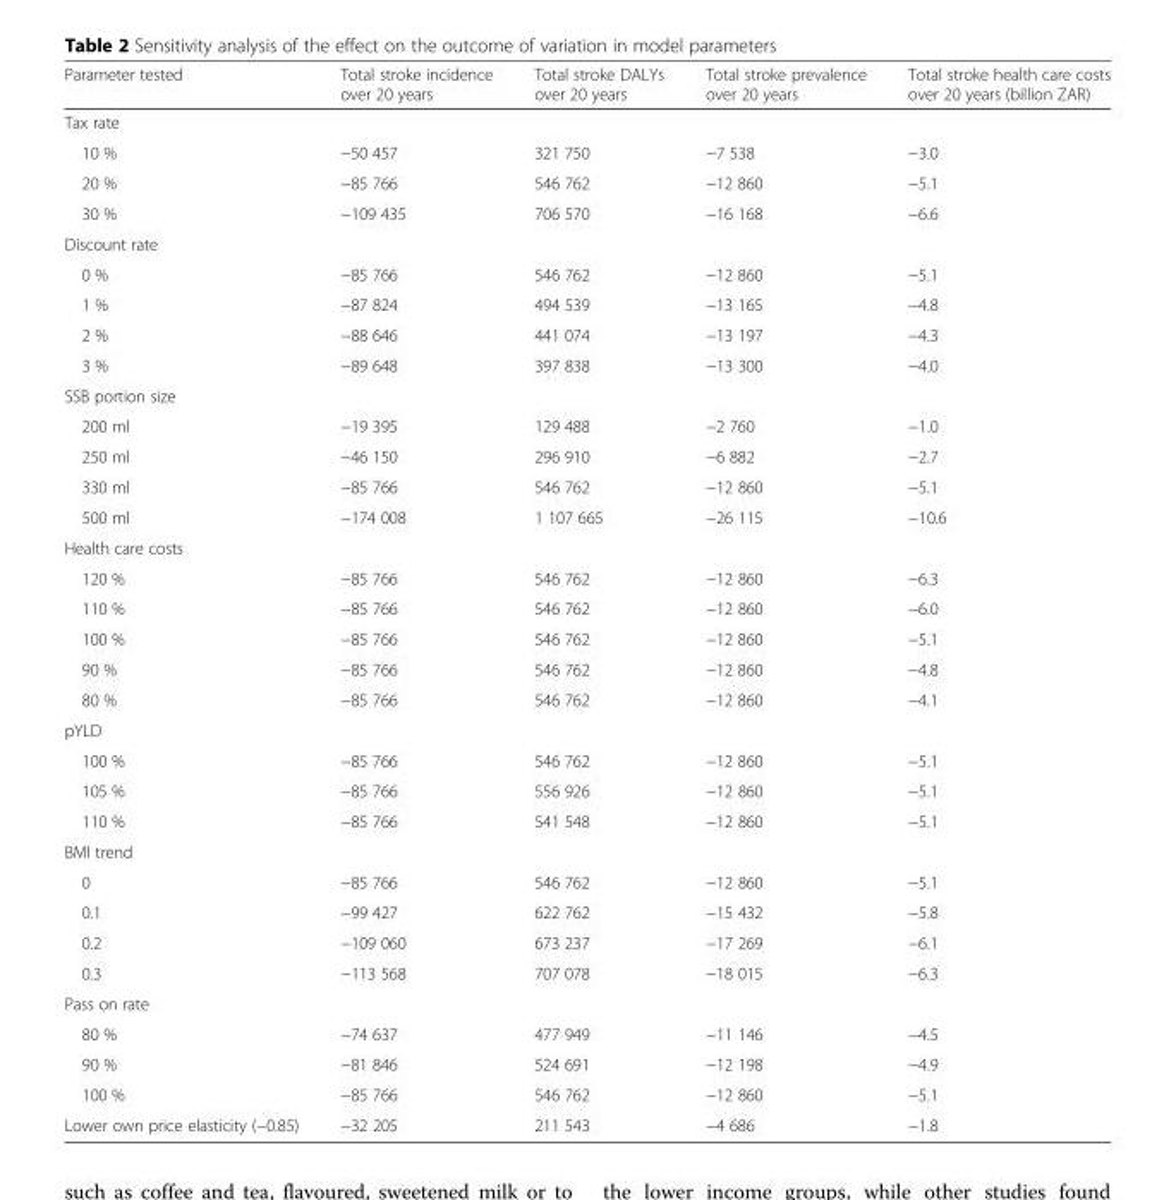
<table><thead><tr><td>Parameter tested</td><td>Total stroke incidence over 20 years</td><td>Total stroke DALYs over 20 years</td><td>Total stroke prevalence over 20 years</td><td>Total stroke health care costs over 20 years (billion ZAR)</td></tr></thead><tbody><tr><td colspan="5">Tax rate</td></tr><tr><td>10 %</td><td>−50 457</td><td>321 750</td><td>−7 538</td><td>−3.0</td></tr><tr><td>20 %</td><td>−85 766</td><td>546 762</td><td>−12 860</td><td>−5.1</td></tr><tr><td>30 %</td><td>−109 435</td><td>706 570</td><td>−16 168</td><td>−6.6</td></tr><tr><td colspan="5">Discount rate</td></tr><tr><td>0 %</td><td>−85 766</td><td>546 762</td><td>−12 860</td><td>−5.1</td></tr><tr><td>1 %</td><td>−87 824</td><td>494 539</td><td>−13 165</td><td>−4.8</td></tr><tr><td>2 %</td><td>−88 646</td><td>441 074</td><td>−13 197</td><td>−4.3</td></tr><tr><td>3 %</td><td>−89 648</td><td>397 838</td><td>−13 300</td><td>−4.0</td></tr><tr><td colspan="5">SSB portion size</td></tr><tr><td>200 ml</td><td>−19 395</td><td>129 488</td><td>−2 760</td><td>−1.0</td></tr><tr><td>250 ml</td><td>−46 150</td><td>296 910</td><td>−6 882</td><td>−2.7</td></tr><tr><td>330 ml</td><td>−85 766</td><td>546 762</td><td>−12 860</td><td>−5.1</td></tr><tr><td>500 ml</td><td>−174 008</td><td>1 107 665</td><td>−26 115</td><td>−10.6</td></tr><tr><td colspan="5">Health care costs</td></tr><tr><td>120 %</td><td>−85 766</td><td>546 762</td><td>−12 860</td><td>−6.3</td></tr><tr><td>110 %</td><td>−85 766</td><td>546 762</td><td>−12 860</td><td>−6.0</td></tr><tr><td>100 %</td><td>−85 766</td><td>546 762</td><td>−12 860</td><td>−5.1</td></tr><tr><td>90 %</td><td>−85 766</td><td>546 762</td><td>−12 860</td><td>−4.8</td></tr><tr><td>80 %</td><td>−85 766</td><td>546 762</td><td>−12 860</td><td>−4.1</td></tr><tr><td colspan="5">pYLD</td></tr><tr><td>100 %</td><td>−85 766</td><td>546 762</td><td>−12 860</td><td>−5.1</td></tr><tr><td>105 %</td><td>−85 766</td><td>556 926</td><td>−12 860</td><td>−5.1</td></tr><tr><td>110 %</td><td>−85 766</td><td>541 548</td><td>−12 860</td><td>−5.1</td></tr><tr><td colspan="5">BMI trend</td></tr><tr><td>0</td><td>−85 766</td><td>546 762</td><td>−12 860</td><td>−5.1</td></tr><tr><td>0.1</td><td>−99 427</td><td>622 762</td><td>−15 432</td><td>−5.8</td></tr><tr><td>0.2</td><td>−109 060</td><td>673 237</td><td>−17 269</td><td>−6.1</td></tr><tr><td>0.3</td><td>−113 568</td><td>707 078</td><td>−18 015</td><td>−6.3</td></tr><tr><td colspan="5">Pass on rate</td></tr><tr><td>80 %</td><td>−74 637</td><td>477 949</td><td>−11 146</td><td>−4.5</td></tr><tr><td>90 %</td><td>−81 846</td><td>524 691</td><td>−12 198</td><td>−4.9</td></tr><tr><td>100 %</td><td>−85 766</td><td>546 762</td><td>−12 860</td><td>−5.1</td></tr><tr><td>Lower own price elasticity (−0.85)</td><td>−32 205</td><td>211 543</td><td>−4 686</td><td>−1.8</td></tr></tbody></table>